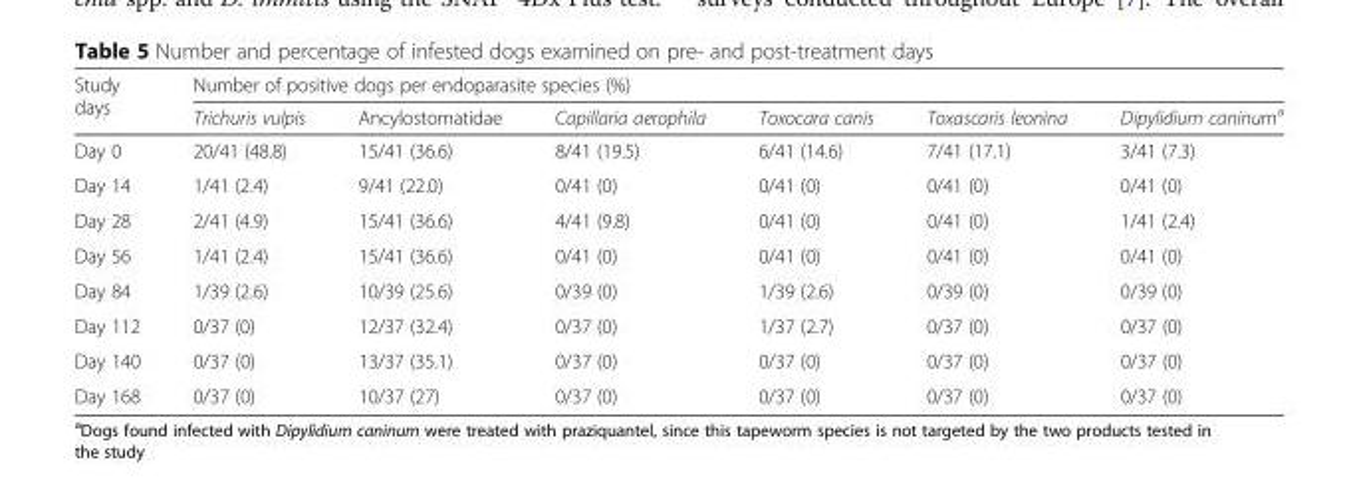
<table><thead><tr><td rowspan="2">Study days</td><td colspan="6">Number of positive dogs per endoparasite species (%)</td></tr><tr><td>Trichuris vulpis</td><td>Ancylostomatidae</td><td>Capillaria aerophila</td><td>Toxocara canis</td><td>Toxascaris leonina</td><td>Dipylidium caninum<sup>a</sup></td></tr></thead><tbody><tr><td>Day 0</td><td>20/41 (48.8)</td><td>15/41 (36.6)</td><td>8/41 (19.5)</td><td>6/41 (14.6)</td><td>7/41 (17.1)</td><td>3/41 (7.3)</td></tr><tr><td>Day 14</td><td>1/41 (2.4)</td><td>9/41 (22.0)</td><td>0/41 (0)</td><td>0/41 (0)</td><td>0/41 (0)</td><td>0/41 (0)</td></tr><tr><td>Day 28</td><td>2/41 (4.9)</td><td>15/41 (36.6)</td><td>4/41 (9.8)</td><td>0/41 (0)</td><td>0/41 (0)</td><td>1/41 (2.4)</td></tr><tr><td>Day 56</td><td>1/41 (2.4)</td><td>15/41 (36.6)</td><td>0/41 (0)</td><td>0/41 (0)</td><td>0/41 (0)</td><td>0/41 (0)</td></tr><tr><td>Day 84</td><td>1/39 (2.6)</td><td>10/39 (25.6)</td><td>0/39 (0)</td><td>1/39 (2.6)</td><td>0/39 (0)</td><td>0/39 (0)</td></tr><tr><td>Day 112</td><td>0/37 (0)</td><td>12/37 (32.4)</td><td>0/37 (0)</td><td>1/37 (2.7)</td><td>0/37 (0)</td><td>0/37 (0)</td></tr><tr><td>Day 140</td><td>0/37 (0)</td><td>13/37 (35.1)</td><td>0/37 (0)</td><td>0/37 (0)</td><td>0/37 (0)</td><td>0/37 (0)</td></tr><tr><td>Day 168</td><td>0/37 (0)</td><td>10/37 (27)</td><td>0/37 (0)</td><td>0/37 (0)</td><td>0/37 (0)</td><td>0/37 (0)</td></tr></tbody></table>